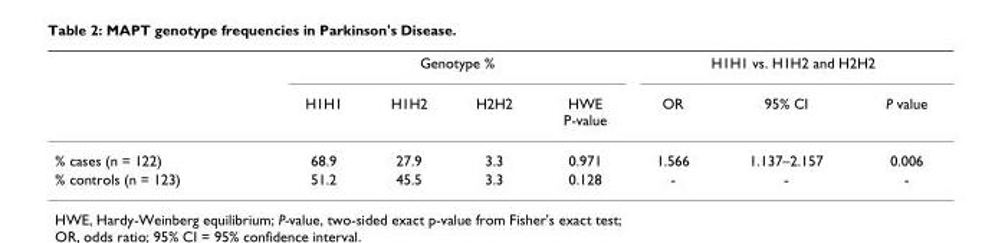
<table><thead><tr><td rowspan="2"></td><td colspan="4">Genotype %</td><td colspan="3">H1H1 vs. H1H2 and H2H2</td></tr><tr><td>H1H1</td><td>H1H2</td><td>H2H2</td><td>HWE P-value</td><td>OR</td><td>95% CI</td><td>P value</td></tr></thead><tbody><tr><td>% cases (n = 122)</td><td>68.9</td><td>27.9</td><td>3.3</td><td>0.971</td><td>1.566</td><td>1.137–2.157</td><td>0.006</td></tr><tr><td>% controls (n = 123)</td><td>51.2</td><td>45.5</td><td>3.3</td><td>0.128</td><td>-</td><td>-</td><td>-</td></tr></tbody></table>